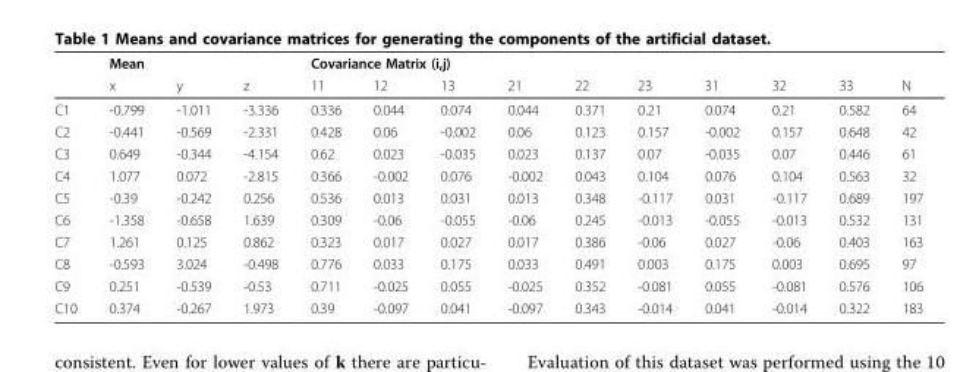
<table><thead><tr><td rowspan="2"></td><td colspan="3">Mean</td><td colspan="9">Covariance Matrix (i,j)</td><td rowspan="2">N</td></tr><tr><td>x</td><td>y</td><td>z</td><td>11</td><td>12</td><td>13</td><td>21</td><td>22</td><td>23</td><td>31</td><td>32</td><td>33</td></tr></thead><tbody><tr><td>C1</td><td>-0.799</td><td>-1.011</td><td>-3.336</td><td>0.336</td><td>0.044</td><td>0.074</td><td>0.044</td><td>0.371</td><td>0.21</td><td>0.074</td><td>0.21</td><td>0.582</td><td>64</td></tr><tr><td>C2</td><td>-0.441</td><td>-0.569</td><td>-2.331</td><td>0.428</td><td>0.06</td><td>-0.002</td><td>0.06</td><td>0.123</td><td>0.157</td><td>-0.002</td><td>0.157</td><td>0.648</td><td>42</td></tr><tr><td>C3</td><td>0.649</td><td>-0.344</td><td>-4.154</td><td>0.62</td><td>0.023</td><td>-0.035</td><td>0.023</td><td>0.137</td><td>0.07</td><td>-0.035</td><td>0.07</td><td>0.446</td><td>61</td></tr><tr><td>C4</td><td>1.077</td><td>0.072</td><td>-2.815</td><td>0.366</td><td>-0.002</td><td>0.076</td><td>-0.002</td><td>0.043</td><td>0.104</td><td>0.076</td><td>0.104</td><td>0.563</td><td>32</td></tr><tr><td>C5</td><td>-0.39</td><td>-0.242</td><td>0.256</td><td>0.536</td><td>0.013</td><td>0.031</td><td>0.013</td><td>0.348</td><td>-0.117</td><td>0.031</td><td>-0.117</td><td>0.689</td><td>197</td></tr><tr><td>C6</td><td>-1.358</td><td>-0.658</td><td>1.639</td><td>0.309</td><td>-0.06</td><td>-0.055</td><td>-0.06</td><td>0.245</td><td>-0.013</td><td>-0.055</td><td>-0.013</td><td>0.532</td><td>131</td></tr><tr><td>C7</td><td>1.261</td><td>0.125</td><td>0.862</td><td>0.323</td><td>0.017</td><td>0.027</td><td>0.017</td><td>0.386</td><td>-0.06</td><td>0.027</td><td>-0.06</td><td>0.403</td><td>163</td></tr><tr><td>C8</td><td>-0.593</td><td>3.024</td><td>-0.498</td><td>0.776</td><td>0.033</td><td>0.175</td><td>0.033</td><td>0.491</td><td>0.003</td><td>0.175</td><td>0.003</td><td>0.695</td><td>97</td></tr><tr><td>C9</td><td>0.251</td><td>-0.539</td><td>-0.53</td><td>0.711</td><td>-0.025</td><td>0.055</td><td>-0.025</td><td>0.352</td><td>-0.081</td><td>0.055</td><td>-0.081</td><td>0.576</td><td>106</td></tr><tr><td>C10</td><td>0.374</td><td>-0.267</td><td>1.973</td><td>0.39</td><td>-0.097</td><td>0.041</td><td>-0.097</td><td>0.343</td><td>-0.014</td><td>0.041</td><td>-0.014</td><td>0.322</td><td>183</td></tr></tbody></table>